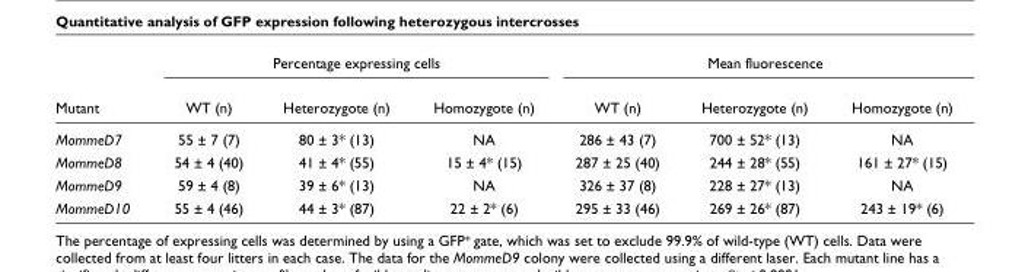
<table><thead><tr><td rowspan="2">Mutant</td><td colspan="3">Percentage expressing cells</td><td colspan="3">Mean fluorescence</td></tr><tr><td>WT (n)</td><td>Heterozygote (n)</td><td>Homozygote (n)</td><td>WT (n)</td><td>Heterozygote (n)</td><td>Homozygote (n)</td></tr></thead><tbody><tr><td>MommeD7</td><td>55 ± 7 (7)</td><td>80 ± 3* (13)</td><td>NA</td><td>286 ± 43 (7)</td><td>700 ± 52* (13)</td><td>NA</td></tr><tr><td>MommeD8</td><td>54 ± 4 (40)</td><td>41 ± 4* (55)</td><td>15 ± 4* (15)</td><td>287 ± 25 (40)</td><td>244 ± 28* (55)</td><td>161 ± 27* (15)</td></tr><tr><td>MommeD9</td><td>59 ± 4 (8)</td><td>39 ± 6* (13)</td><td>NA</td><td>326 ± 37 (8)</td><td>228 ± 27* (13)</td><td>NA</td></tr><tr><td>MommeD10</td><td>55 ± 4 (46)</td><td>44 ± 3* (87)</td><td>22 ± 2* (6)</td><td>295 ± 33 (46)</td><td>269 ± 26* (87)</td><td>243 ± 19* (6)</td></tr></tbody></table>